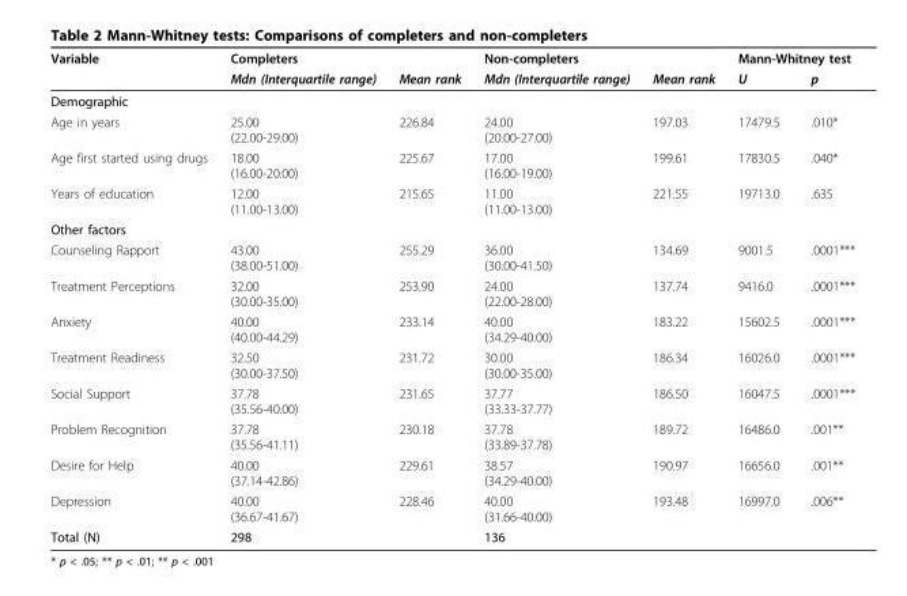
<table><thead><tr><td rowspan="2">Variable</td><td rowspan="2">Completers Mdn (Interquartile range)</td><td rowspan="2">Mean rank</td><td rowspan="2">Non-completers Mdn (Interquartile range)</td><td rowspan="2">Mean rank</td><td colspan="2">Mann-Whitney test</td></tr><tr><td>U</td><td>p</td></tr></thead><tbody><tr><td colspan="7">Demographic</td></tr><tr><td>Age in years</td><td>25.00 (22.00-29.00)</td><td>226.84</td><td>24.00 (20.00-27.00)</td><td>197.03</td><td>17479.5</td><td>.010*</td></tr><tr><td>Age first started using drugs</td><td>18.00 (16.00-20.00)</td><td>225.67</td><td>17.00 (16.00-19.00)</td><td>199.61</td><td>17830.5</td><td>.040*</td></tr><tr><td>Years of education</td><td>12.00 (11.00-13.00)</td><td>215.65</td><td>11.00 (11.00-13.00)</td><td>221.55</td><td>19713.0</td><td>.635</td></tr><tr><td colspan="7">Other factors</td></tr><tr><td>Counseling Rapport</td><td>43.00 (38.00-51.00)</td><td>255.29</td><td>36.00 (30.00-41.50)</td><td>134.69</td><td>9001.5</td><td>.0001***</td></tr><tr><td>Treatment Perceptions</td><td>32.00 (30.00-35.00)</td><td>253.90</td><td>24.00 (22.00-28.00)</td><td>137.74</td><td>9416.0</td><td>.0001***</td></tr><tr><td>Anxiety</td><td>40.00 (40.00-44.29)</td><td>233.14</td><td>40.00 (34.29-40.00)</td><td>183.22</td><td>15602.5</td><td>.0001***</td></tr><tr><td>Treatment Readiness</td><td>32.50 (30.00-37.50)</td><td>231.72</td><td>30.00 (30.00-35.00)</td><td>186.34</td><td>16026.0</td><td>.0001***</td></tr><tr><td>Social Support</td><td>37.78 (35.56-40.00)</td><td>231.65</td><td>37.77 (33.33-37.77)</td><td>186.50</td><td>16047.5</td><td>.0001***</td></tr><tr><td>Problem Recognition</td><td>37.78 (35.56-41.11)</td><td>230.18</td><td>37.78 (33.89-37.78)</td><td>189.72</td><td>16486.0</td><td>.001**</td></tr><tr><td>Desire for Help</td><td>40.00 (37.14-42.86)</td><td>229.61</td><td>38.57 (34.29-40.00)</td><td>190.97</td><td>16656.0</td><td>.001**</td></tr><tr><td>Depression</td><td>40.00 (36.67-41.67)</td><td>228.46</td><td>40.00 (31.66-40.00)</td><td>193.48</td><td>16997.0</td><td>.006**</td></tr><tr><td>Total (N)</td><td>298</td><td></td><td>136</td><td></td><td></td><td></td></tr></tbody></table>